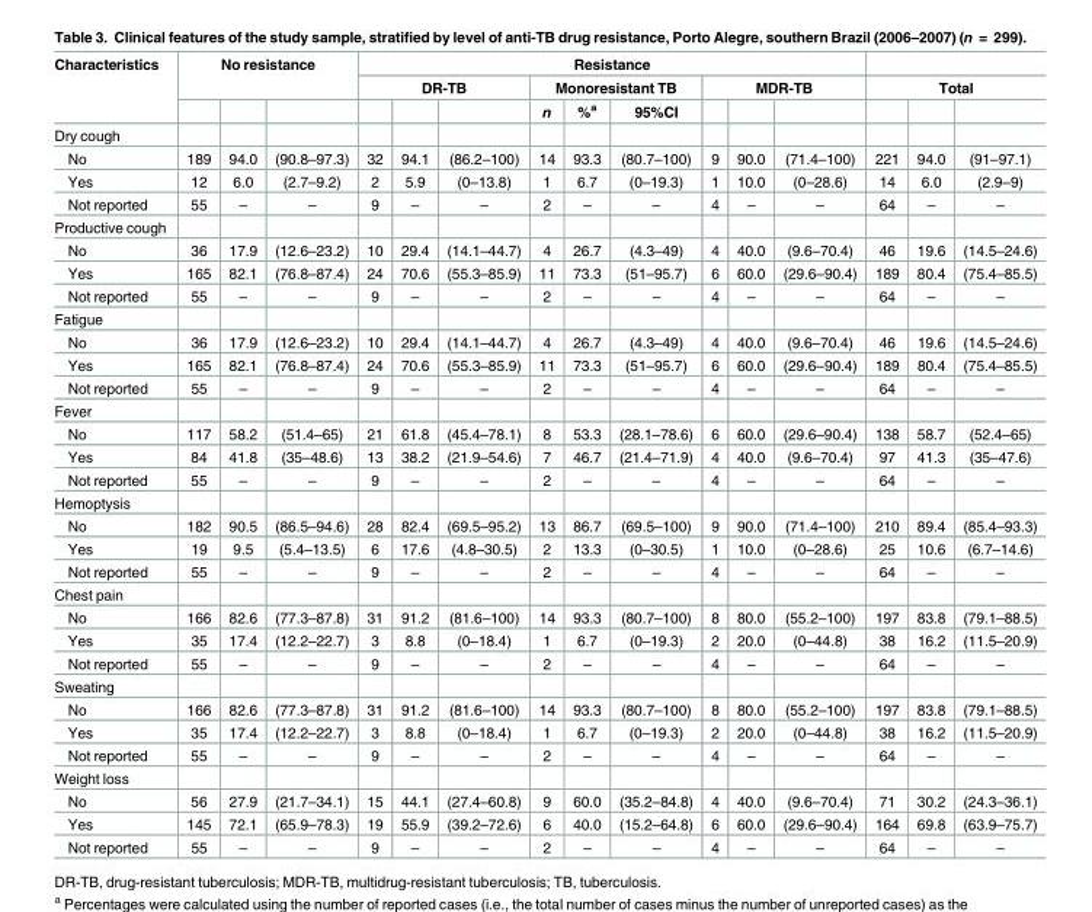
<table><thead><tr><td rowspan="3">Characteristics</td><td rowspan="2" colspan="3">No resistance</td><td colspan="9">Resistance</td><td></td><td></td><td></td></tr><tr><td colspan="3">DR-TB</td><td colspan="3">Monoresistant TB</td><td colspan="3">MDR-TB</td><td colspan="3">Total</td></tr><tr><td></td><td></td><td></td><td></td><td></td><td></td><td>n</td><td>%<sup>a</sup></td><td>95%CI</td><td></td><td></td><td></td><td></td><td></td><td></td></tr></thead><tbody><tr><td colspan="16">Dry cough</td></tr><tr><td>No</td><td>189</td><td>94.0</td><td>(90.8–97.3)</td><td>32</td><td>94.1</td><td>(86.2–100)</td><td>14</td><td>93.3</td><td>(80.7–100)</td><td>9</td><td>90.0</td><td>(71.4–100)</td><td>221</td><td>94.0</td><td>(91–97.1)</td></tr><tr><td>Yes</td><td>12</td><td>6.0</td><td>(2.7–9.2)</td><td>2</td><td>5.9</td><td>(0–13.8)</td><td>1</td><td>6.7</td><td>(0–19.3)</td><td>1</td><td>10.0</td><td>(0–28.6)</td><td>14</td><td>6.0</td><td>(2.9–9)</td></tr><tr><td>Not reported</td><td>55</td><td>–</td><td>–</td><td>9</td><td>–</td><td>–</td><td>2</td><td>–</td><td>–</td><td>4</td><td>–</td><td>–</td><td>64</td><td>–</td><td>–</td></tr><tr><td colspan="16">Productive cough</td></tr><tr><td>No</td><td>36</td><td>17.9</td><td>(12.6–23.2)</td><td>10</td><td>29.4</td><td>(14.1–44.7)</td><td>4</td><td>26.7</td><td>(4.3–49)</td><td>4</td><td>40.0</td><td>(9.6–70.4)</td><td>46</td><td>19.6</td><td>(14.5–24.6)</td></tr><tr><td>Yes</td><td>165</td><td>82.1</td><td>(76.8–87.4)</td><td>24</td><td>70.6</td><td>(55.3–85.9)</td><td>11</td><td>73.3</td><td>(51–95.7)</td><td>6</td><td>60.0</td><td>(29.6–90.4)</td><td>189</td><td>80.4</td><td>(75.4–85.5)</td></tr><tr><td>Not reported</td><td>55</td><td>–</td><td>–</td><td>9</td><td>–</td><td>–</td><td>2</td><td>–</td><td>–</td><td>4</td><td>–</td><td>–</td><td>64</td><td>–</td><td>–</td></tr><tr><td colspan="16">Fatigue</td></tr><tr><td>No</td><td>36</td><td>17.9</td><td>(12.6–23.2)</td><td>10</td><td>29.4</td><td>(14.1–44.7)</td><td>4</td><td>26.7</td><td>(4.3–49)</td><td>4</td><td>40.0</td><td>(9.6–70.4)</td><td>46</td><td>19.6</td><td>(14.5–24.6)</td></tr><tr><td>Yes</td><td>165</td><td>82.1</td><td>(76.8–87.4)</td><td>24</td><td>70.6</td><td>(55.3–85.9)</td><td>11</td><td>73.3</td><td>(51–95.7)</td><td>6</td><td>60.0</td><td>(29.6–90.4)</td><td>189</td><td>80.4</td><td>(75.4–85.5)</td></tr><tr><td>Not reported</td><td>55</td><td>–</td><td>–</td><td>9</td><td>–</td><td>–</td><td>2</td><td>–</td><td>–</td><td>4</td><td>–</td><td>–</td><td>64</td><td>–</td><td>–</td></tr><tr><td colspan="16">Fever</td></tr><tr><td>No</td><td>117</td><td>58.2</td><td>(51.4–65)</td><td>21</td><td>61.8</td><td>(45.4–78.1)</td><td>8</td><td>53.3</td><td>(28.1–78.6)</td><td>6</td><td>60.0</td><td>(29.6–90.4)</td><td>138</td><td>58.7</td><td>(52.4–65)</td></tr><tr><td>Yes</td><td>84</td><td>41.8</td><td>(35–48.6)</td><td>13</td><td>38.2</td><td>(21.9–54.6)</td><td>7</td><td>46.7</td><td>(21.4–71.9)</td><td>4</td><td>40.0</td><td>(9.6–70.4)</td><td>97</td><td>41.3</td><td>(35–47.6)</td></tr><tr><td>Not reported</td><td>55</td><td>–</td><td>–</td><td>9</td><td>–</td><td>–</td><td>2</td><td>–</td><td>–</td><td>4</td><td>–</td><td>–</td><td>64</td><td>–</td><td>–</td></tr><tr><td colspan="16">Hemoptysis</td></tr><tr><td>No</td><td>182</td><td>90.5</td><td>(86.5–94.6)</td><td>28</td><td>82.4</td><td>(69.5–95.2)</td><td>13</td><td>86.7</td><td>(69.5–100)</td><td>9</td><td>90.0</td><td>(71.4–100)</td><td>210</td><td>89.4</td><td>(85.4–93.3)</td></tr><tr><td>Yes</td><td>19</td><td>9.5</td><td>(5.4–13.5)</td><td>6</td><td>17.6</td><td>(4.8–30.5)</td><td>2</td><td>13.3</td><td>(0–30.5)</td><td>1</td><td>10.0</td><td>(0–28.6)</td><td>25</td><td>10.6</td><td>(6.7–14.6)</td></tr><tr><td>Not reported</td><td>55</td><td>–</td><td>–</td><td>9</td><td>–</td><td>–</td><td>2</td><td>–</td><td>–</td><td>4</td><td>–</td><td>–</td><td>64</td><td>–</td><td>–</td></tr><tr><td colspan="16">Chest pain</td></tr><tr><td>No</td><td>166</td><td>82.6</td><td>(77.3–87.8)</td><td>31</td><td>91.2</td><td>(81.6–100)</td><td>14</td><td>93.3</td><td>(80.7–100)</td><td>8</td><td>80.0</td><td>(55.2–100)</td><td>197</td><td>83.8</td><td>(79.1–88.5)</td></tr><tr><td>Yes</td><td>35</td><td>17.4</td><td>(12.2–22.7)</td><td>3</td><td>8.8</td><td>(0–18.4)</td><td>1</td><td>6.7</td><td>(0–19.3)</td><td>2</td><td>20.0</td><td>(0–44.8)</td><td>38</td><td>16.2</td><td>(11.5–20.9)</td></tr><tr><td>Not reported</td><td>55</td><td>–</td><td>–</td><td>9</td><td>–</td><td>–</td><td>2</td><td>–</td><td>–</td><td>4</td><td>–</td><td>–</td><td>64</td><td>–</td><td>–</td></tr><tr><td colspan="16">Sweating</td></tr><tr><td>No</td><td>166</td><td>82.6</td><td>(77.3–87.8)</td><td>31</td><td>91.2</td><td>(81.6–100)</td><td>14</td><td>93.3</td><td>(80.7–100)</td><td>8</td><td>80.0</td><td>(55.2–100)</td><td>197</td><td>83.8</td><td>(79.1–88.5)</td></tr><tr><td>Yes</td><td>35</td><td>17.4</td><td>(12.2–22.7)</td><td>3</td><td>8.8</td><td>(0–18.4)</td><td>1</td><td>6.7</td><td>(0–19.3)</td><td>2</td><td>20.0</td><td>(0–44.8)</td><td>38</td><td>16.2</td><td>(11.5–20.9)</td></tr><tr><td>Not reported</td><td>55</td><td>–</td><td>–</td><td>9</td><td>–</td><td>–</td><td>2</td><td>–</td><td>–</td><td>4</td><td>–</td><td>–</td><td>64</td><td>–</td><td>–</td></tr><tr><td colspan="16">Weight loss</td></tr><tr><td>No</td><td>56</td><td>27.9</td><td>(21.7–34.1)</td><td>15</td><td>44.1</td><td>(27.4–60.8)</td><td>9</td><td>60.0</td><td>(35.2–84.8)</td><td>4</td><td>40.0</td><td>(9.6–70.4)</td><td>71</td><td>30.2</td><td>(24.3–36.1)</td></tr><tr><td>Yes</td><td>145</td><td>72.1</td><td>(65.9–78.3)</td><td>19</td><td>55.9</td><td>(39.2–72.6)</td><td>6</td><td>40.0</td><td>(15.2–64.8)</td><td>6</td><td>60.0</td><td>(29.6–90.4)</td><td>164</td><td>69.8</td><td>(63.9–75.7)</td></tr><tr><td>Not reported</td><td>55</td><td>–</td><td>–</td><td>9</td><td>–</td><td>–</td><td>2</td><td>–</td><td>–</td><td>4</td><td>–</td><td>–</td><td>64</td><td>–</td><td>–</td></tr></tbody></table>